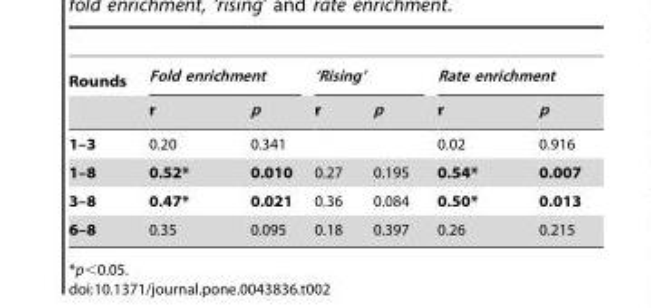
<table><thead><tr><td rowspan="2">Rounds</td><td colspan="2">Fold enrichment</td><td colspan="2">‘Rising’</td><td colspan="2">Rate enrichment</td></tr><tr><td>r</td><td>p</td><td>r</td><td>p</td><td>r</td><td>p</td></tr></thead><tbody><tr><td>1–3</td><td>0.20</td><td>0.341</td><td></td><td></td><td>0.02</td><td>0.916</td></tr><tr><td>1–8</td><td>0.52*</td><td>0.010</td><td>0.27</td><td>0.195</td><td>0.54*</td><td>0.007</td></tr><tr><td>3–8</td><td>0.47*</td><td>0.021</td><td>0.36</td><td>0.084</td><td>0.50*</td><td>0.013</td></tr><tr><td>6–8</td><td>0.35</td><td>0.095</td><td>0.18</td><td>0.397</td><td>0.26</td><td>0.215</td></tr></tbody></table>